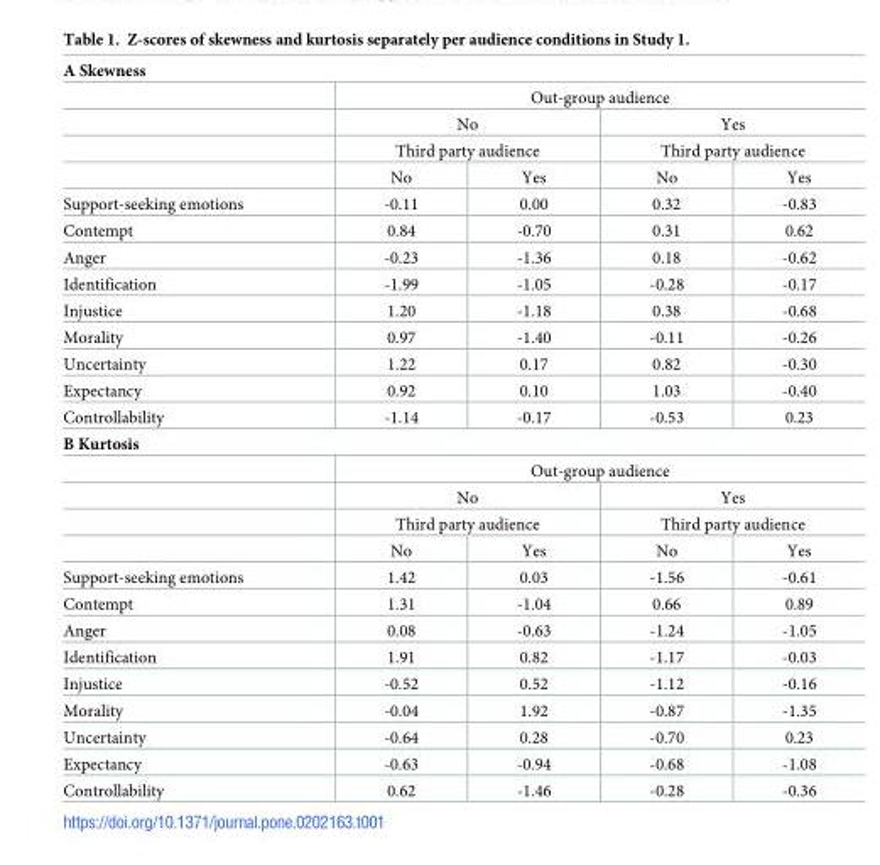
<table><tbody><tr><td colspan="5">A Skewness</td></tr><tr><td></td><td colspan="4">Out-group audience</td></tr><tr><td></td><td colspan="2">No</td><td colspan="2">Yes</td></tr><tr><td></td><td colspan="2">Third party audience</td><td colspan="2">Third party audience</td></tr><tr><td></td><td>No</td><td>Yes</td><td>No</td><td>Yes</td></tr><tr><td>Support-seeking emotions</td><td>-0.11</td><td>0.00</td><td>0.32</td><td>-0.83</td></tr><tr><td>Contempt</td><td>0.84</td><td>-0.70</td><td>0.31</td><td>0.62</td></tr><tr><td>Anger</td><td>-0.23</td><td>-1.36</td><td>0.18</td><td>-0.62</td></tr><tr><td>Identification</td><td>-1.99</td><td>-1.05</td><td>-0.28</td><td>-0.17</td></tr><tr><td>Injustice</td><td>1.20</td><td>-1.18</td><td>0.38</td><td>-0.68</td></tr><tr><td>Morality</td><td>0.97</td><td>-1.40</td><td>-0.11</td><td>-0.26</td></tr><tr><td>Uncertainty</td><td>1.22</td><td>0.17</td><td>0.82</td><td>-0.30</td></tr><tr><td>Expectancy</td><td>0.92</td><td>0.10</td><td>1.03</td><td>-0.40</td></tr><tr><td>Controllability</td><td>-1.14</td><td>-0.17</td><td>-0.53</td><td>0.23</td></tr><tr><td colspan="5">B Kurtosis</td></tr><tr><td></td><td colspan="4">Out-group audience</td></tr><tr><td></td><td colspan="2">No</td><td colspan="2">Yes</td></tr><tr><td></td><td colspan="2">Third party audience</td><td colspan="2">Third party audience</td></tr><tr><td></td><td>No</td><td>Yes</td><td>No</td><td>Yes</td></tr><tr><td>Support-seeking emotions</td><td>1.42</td><td>0.03</td><td>-1.56</td><td>-0.61</td></tr><tr><td>Contempt</td><td>1.31</td><td>-1.04</td><td>0.66</td><td>0.89</td></tr><tr><td>Anger</td><td>0.08</td><td>-0.63</td><td>-1.24</td><td>-1.05</td></tr><tr><td>Identification</td><td>1.91</td><td>0.82</td><td>-1.17</td><td>-0.03</td></tr><tr><td>Injustice</td><td>-0.52</td><td>0.52</td><td>-1.12</td><td>-0.16</td></tr><tr><td>Morality</td><td>-0.04</td><td>1.92</td><td>-0.87</td><td>-1.35</td></tr><tr><td>Uncertainty</td><td>-0.64</td><td>0.28</td><td>-0.70</td><td>0.23</td></tr><tr><td>Expectancy</td><td>-0.63</td><td>-0.94</td><td>-0.68</td><td>-1.08</td></tr><tr><td>Controllability</td><td>0.62</td><td>-1.46</td><td>-0.28</td><td>-0.36</td></tr></tbody></table>